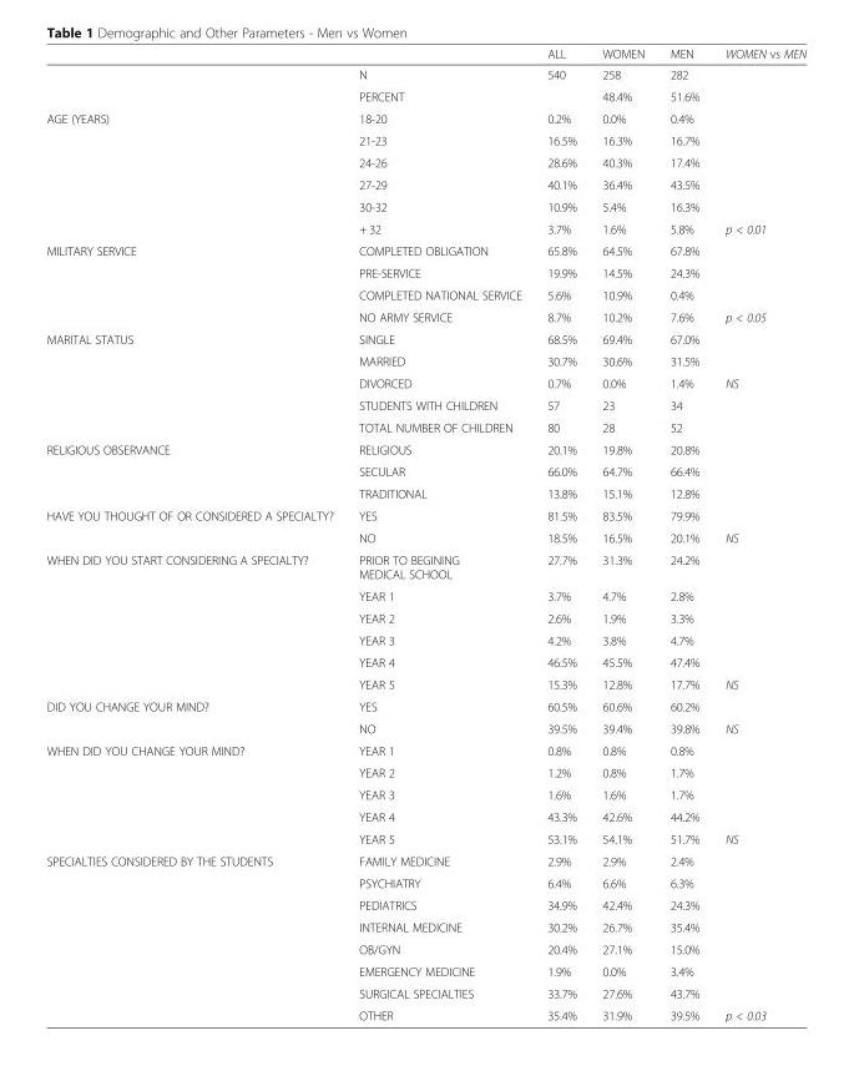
<table><thead><tr><td></td><td></td><td>ALL</td><td>WOMEN</td><td>MEN</td><td>WOMEN vs MEN</td></tr></thead><tbody><tr><td rowspan="2"></td><td>N</td><td>540</td><td>258</td><td>282</td><td></td></tr><tr><td>PERCENT</td><td></td><td>48.4%</td><td>51.6%</td><td></td></tr><tr><td rowspan="6">AGE (YEARS)</td><td>18-20</td><td>0.2%</td><td>0.0%</td><td>0.4%</td><td></td></tr><tr><td>21-23</td><td>16.5%</td><td>16.3%</td><td>16.7%</td><td></td></tr><tr><td>24-26</td><td>28.6%</td><td>40.3%</td><td>17.4%</td><td></td></tr><tr><td>27-29</td><td>40.1%</td><td>36.4%</td><td>43.5%</td><td></td></tr><tr><td>30-32</td><td>10.9%</td><td>5.4%</td><td>16.3%</td><td></td></tr><tr><td>+ 32</td><td>3.7%</td><td>1.6%</td><td>5.8%</td><td>p &lt; 0.01</td></tr><tr><td rowspan="4">MILITARY SERVICE</td><td>COMPLETED OBLIGATION</td><td>65.8%</td><td>64.5%</td><td>67.8%</td><td></td></tr><tr><td>PRE-SERVICE</td><td>19.9%</td><td>14.5%</td><td>24.3%</td><td></td></tr><tr><td>COMPLETED NATIONAL SERVICE</td><td>5.6%</td><td>10.9%</td><td>0.4%</td><td></td></tr><tr><td>NO ARMY SERVICE</td><td>8.7%</td><td>10.2%</td><td>7.6%</td><td>p &lt; 0.05</td></tr><tr><td rowspan="5">MARITAL STATUS</td><td>SINGLE</td><td>68.5%</td><td>69.4%</td><td>67.0%</td><td></td></tr><tr><td>MARRIED</td><td>30.7%</td><td>30.6%</td><td>31.5%</td><td></td></tr><tr><td>DIVORCED</td><td>0.7%</td><td>0.0%</td><td>1.4%</td><td>NS</td></tr><tr><td>STUDENTS WITH CHILDREN</td><td>57</td><td>23</td><td>34</td><td></td></tr><tr><td>TOTAL NUMBER OF CHILDREN</td><td>80</td><td>28</td><td>52</td><td></td></tr><tr><td rowspan="3">RELIGIOUS OBSERVANCE</td><td>RELIGIOUS</td><td>20.1%</td><td>19.8%</td><td>20.8%</td><td></td></tr><tr><td>SECULAR</td><td>66.0%</td><td>64.7%</td><td>66.4%</td><td></td></tr><tr><td>TRADITIONAL</td><td>13.8%</td><td>15.1%</td><td>12.8%</td><td></td></tr><tr><td rowspan="2">HAVE YOU THOUGHT OF OR CONSIDERED A SPECIALTY?</td><td>YES</td><td>81.5%</td><td>83.5%</td><td>79.9%</td><td></td></tr><tr><td>NO</td><td>18.5%</td><td>16.5%</td><td>20.1%</td><td>NS</td></tr><tr><td rowspan="6">WHEN DID YOU START CONSIDERING A SPECIALTY?</td><td>PRIOR TO BEGINING MEDICAL SCHOOL</td><td>27.7%</td><td>31.3%</td><td>24.2%</td><td></td></tr><tr><td>YEAR 1</td><td>3.7%</td><td>4.7%</td><td>2.8%</td><td></td></tr><tr><td>YEAR 2</td><td>2.6%</td><td>1.9%</td><td>3.3%</td><td></td></tr><tr><td>YEAR 3</td><td>4.2%</td><td>3.8%</td><td>4.7%</td><td></td></tr><tr><td>YEAR 4</td><td>46.5%</td><td>45.5%</td><td>47.4%</td><td></td></tr><tr><td>YEAR 5</td><td>15.3%</td><td>12.8%</td><td>17.7%</td><td>NS</td></tr><tr><td rowspan="2">DID YOU CHANGE YOUR MIND?</td><td>YES</td><td>60.5%</td><td>60.6%</td><td>60.2%</td><td></td></tr><tr><td>NO</td><td>39.5%</td><td>39.4%</td><td>39.8%</td><td>NS</td></tr><tr><td rowspan="5">WHEN DID YOU CHANGE YOUR MIND?</td><td>YEAR 1</td><td>0.8%</td><td>0.8%</td><td>0.8%</td><td></td></tr><tr><td>YEAR 2</td><td>1.2%</td><td>0.8%</td><td>1.7%</td><td></td></tr><tr><td>YEAR 3</td><td>1.6%</td><td>1.6%</td><td>1.7%</td><td></td></tr><tr><td>YEAR 4</td><td>43.3%</td><td>42.6%</td><td>44.2%</td><td></td></tr><tr><td>YEAR 5</td><td>53.1%</td><td>54.1%</td><td>51.7%</td><td>NS</td></tr><tr><td rowspan="8">SPECIALTIES CONSIDERED BY THE STUDENTS</td><td>FAMILY MEDICINE</td><td>2.9%</td><td>2.9%</td><td>2.4%</td><td></td></tr><tr><td>PSYCHIATRY</td><td>6.4%</td><td>6.6%</td><td>6.3%</td><td></td></tr><tr><td>PEDIATRICS</td><td>34.9%</td><td>42.4%</td><td>24.3%</td><td></td></tr><tr><td>INTERNAL MEDICINE</td><td>30.2%</td><td>26.7%</td><td>35.4%</td><td></td></tr><tr><td>OB/GYN</td><td>20.4%</td><td>27.1%</td><td>15.0%</td><td></td></tr><tr><td>EMERGENCY MEDICINE</td><td>1.9%</td><td>0.0%</td><td>3.4%</td><td></td></tr><tr><td>SURGICAL SPECIALTIES</td><td>33.7%</td><td>27.6%</td><td>43.7%</td><td></td></tr><tr><td>OTHER</td><td>35.4%</td><td>31.9%</td><td>39.5%</td><td>p &lt; 0.03</td></tr></tbody></table>